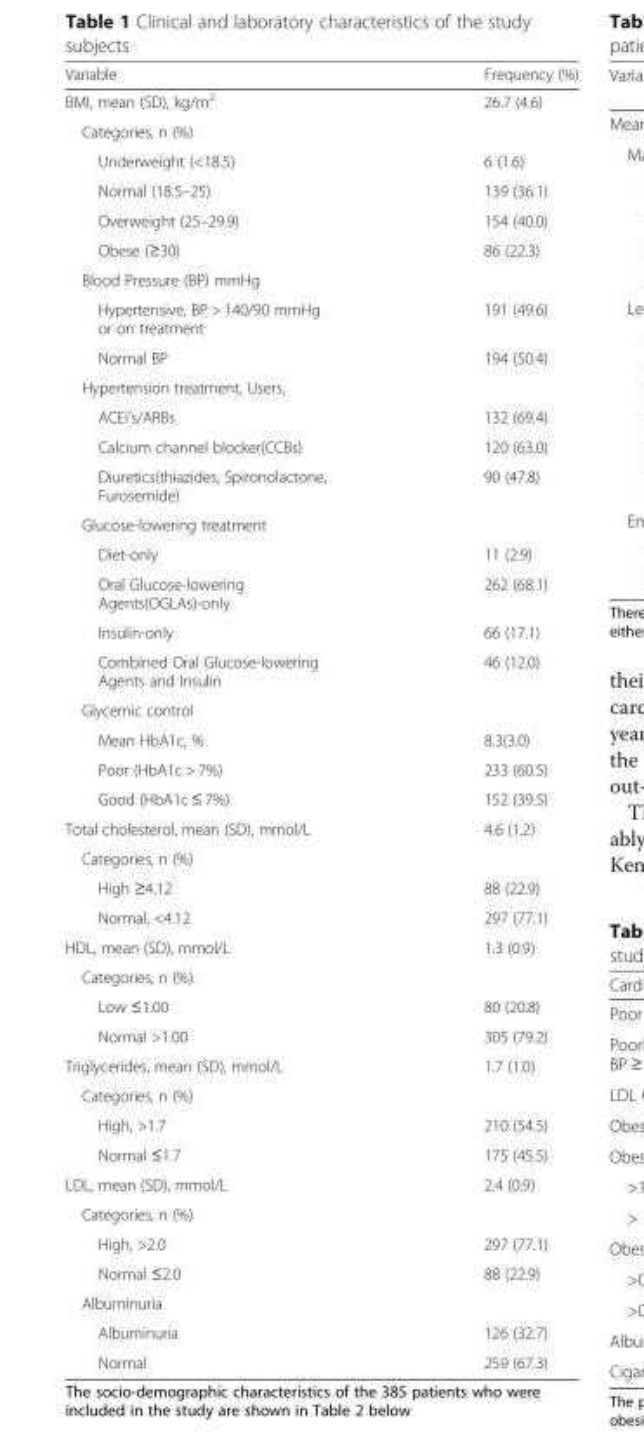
<table><thead><tr><td>Variable</td><td>Frequency (%)</td></tr></thead><tbody><tr><td>BMI, mean (SD), kg/m<sup>2</sup></td><td>26.7 (4.6)</td></tr><tr><td colspan="2">Categories, n (%)</td></tr><tr><td>Underweight (&lt;18.5)</td><td>6 (1.6)</td></tr><tr><td>Normal (18.5–25)</td><td>139 (36.1)</td></tr><tr><td>Overweight (25–29.9)</td><td>154 (40.0)</td></tr><tr><td>Obese (≥30)</td><td>86 (22.3)</td></tr><tr><td colspan="2">Blood Pressure (BP) mmHg</td></tr><tr><td>Hypertensive, BP &gt; 140/90 mmHg or on treatment</td><td>191 (49.6)</td></tr><tr><td>Normal BP</td><td>194 (50.4)</td></tr><tr><td colspan="2">Hypertension treatment, Users,</td></tr><tr><td>ACEi’s/ARBs</td><td>132 (69.4)</td></tr><tr><td>Calcium channel blocker(CCBs)</td><td>120 (63.0)</td></tr><tr><td>Diuretics(thiazides, Spironolactone, Furosemide)</td><td>90 (47.8)</td></tr><tr><td colspan="2">Glucose-lowering treatment</td></tr><tr><td>Diet-only</td><td>11 (2.9)</td></tr><tr><td>Oral Glucose-lowering Agents(OGLAs)-only</td><td>262 (68.1)</td></tr><tr><td>Insulin-only</td><td>66 (17.1)</td></tr><tr><td>Combined Oral Glucose-lowering Agents and Insulin</td><td>46 (12.0)</td></tr><tr><td colspan="2">Glycemic control</td></tr><tr><td>Mean HbA1c, %</td><td>8.3(3.0)</td></tr><tr><td>Poor (HbA1c &gt; 7%)</td><td>233 (60.5)</td></tr><tr><td>Good (HbA1c ≤ 7%)</td><td>152 (39.5)</td></tr><tr><td>Total cholesterol, mean (SD), mmol/L</td><td>4.6 (1.2)</td></tr><tr><td colspan="2">Categories, n (%)</td></tr><tr><td>High ≥4.12</td><td>88 (22.9)</td></tr><tr><td>Normal, &lt;4.12</td><td>297 (77.1)</td></tr><tr><td>HDL, mean (SD), mmol/L</td><td>1.3 (0.9)</td></tr><tr><td colspan="2">Categories, n (%)</td></tr><tr><td>Low ≤1.00</td><td>80 (20.8)</td></tr><tr><td>Normal &gt;1.00</td><td>305 (79.2)</td></tr><tr><td>Triglycerides, mean (SD), mmol/L</td><td>1.7 (1.0)</td></tr><tr><td colspan="2">Categories, n (%)</td></tr><tr><td>High, &gt;1.7</td><td>210 (54.5)</td></tr><tr><td>Normal ≤1.7</td><td>175 (45.5)</td></tr><tr><td>LDL, mean (SD), mmol/L</td><td>2.4 (0.9)</td></tr><tr><td colspan="2">Categories, n (%)</td></tr><tr><td>High, &gt;2.0</td><td>297 (77.1)</td></tr><tr><td>Normal ≤2.0</td><td>88 (22.9)</td></tr><tr><td colspan="2">Albuminuria</td></tr><tr><td>Albuminuria</td><td>126 (32.7)</td></tr><tr><td>Normal</td><td>259 (67.3)</td></tr></tbody></table>